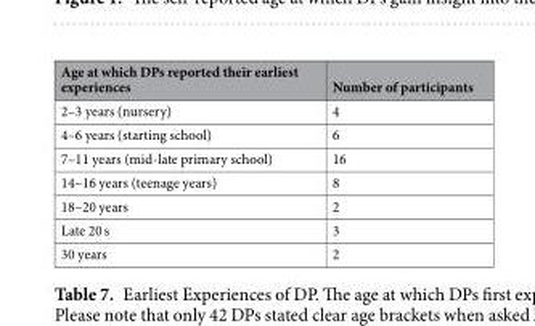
<table><thead><tr><td>Age at which DPs reported their earliest experiences</td><td>Number of participants</td></tr></thead><tbody><tr><td>2–3 years (nursery)</td><td>4</td></tr><tr><td>4–6 years (starting school)</td><td>6</td></tr><tr><td>7–11 years (mid-late primary school)</td><td>16</td></tr><tr><td>14–16 years (teenage years)</td><td>8</td></tr><tr><td>18–20 years</td><td>2</td></tr><tr><td>Late 20 s</td><td>3</td></tr><tr><td>30 years</td><td>2</td></tr></tbody></table>